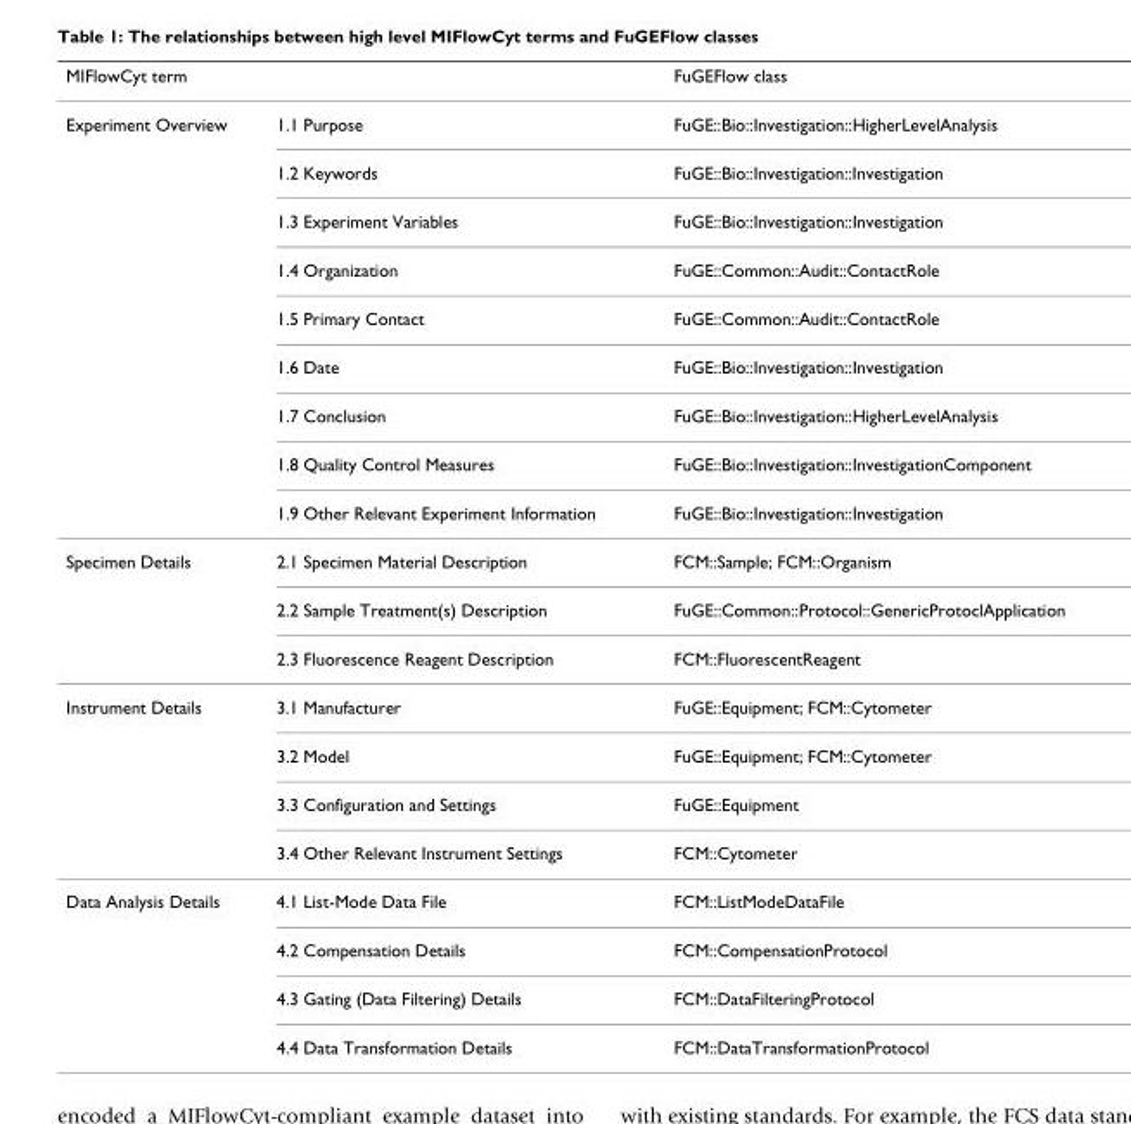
<table><thead><tr><td>MIFlowCyt term</td><td></td><td>FuGEFlow class</td></tr></thead><tbody><tr><td rowspan="9">Experiment Overview</td><td>1.1 Purpose</td><td>FuGE::Bio::Investigation::HigherLevelAnalysis</td></tr><tr><td>1.2 Keywords</td><td>FuGE::Bio::Investigation::Investigation</td></tr><tr><td>1.3 Experiment Variables</td><td>FuGE::Bio::Investigation::Investigation</td></tr><tr><td>1.4 Organization</td><td>FuGE::Common::Audit::ContactRole</td></tr><tr><td>1.5 Primary Contact</td><td>FuGE::Common::Audit::ContactRole</td></tr><tr><td>1.6 Date</td><td>FuGE::Bio::Investigation::Investigation</td></tr><tr><td>1.7 Conclusion</td><td>FuGE::Bio::Investigation::HigherLevelAnalysis</td></tr><tr><td>1.8 Quality Control Measures</td><td>FuGE::Bio::Investigation::InvestigationComponent</td></tr><tr><td>1.9 Other Relevant Experiment Information</td><td>FuGE::Bio::Investigation::Investigation</td></tr><tr><td rowspan="3">Specimen Details</td><td>2.1 Specimen Material Description</td><td>FCM::Sample; FCM::Organism</td></tr><tr><td>2.2 Sample Treatment(s) Description</td><td>FuGE::Common::Protocol::GenericProtoclApplication</td></tr><tr><td>2.3 Fluorescence Reagent Description</td><td>FCM::FluorescentReagent</td></tr><tr><td rowspan="4">Instrument Details</td><td>3.1 Manufacturer</td><td>FuGE::Equipment; FCM::Cytometer</td></tr><tr><td>3.2 Model</td><td>FuGE::Equipment; FCM::Cytometer</td></tr><tr><td>3.3 Configuration and Settings</td><td>FuGE::Equipment</td></tr><tr><td>3.4 Other Relevant Instrument Settings</td><td>FCM::Cytometer</td></tr><tr><td rowspan="4">Data Analysis Details</td><td>4.1 List-Mode Data File</td><td>FCM::ListModeDataFile</td></tr><tr><td>4.2 Compensation Details</td><td>FCM::CompensationProtocol</td></tr><tr><td>4.3 Gating (Data Filtering) Details</td><td>FCM::DataFilteringProtocol</td></tr><tr><td>4.4 Data Transformation Details</td><td>FCM::DataTransformationProtocol</td></tr></tbody></table>